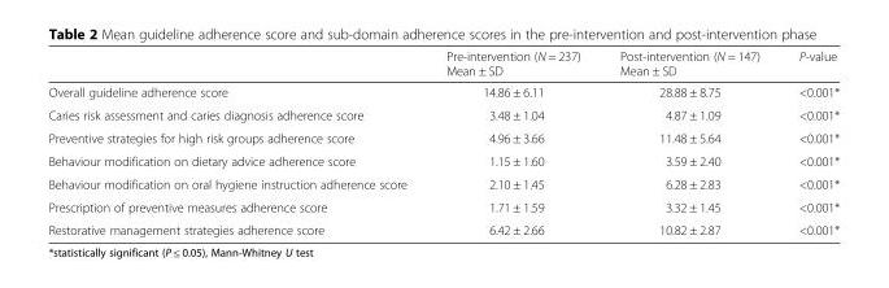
<table><thead><tr><td></td><td>Pre-intervention (N = 237) Mean ± SD</td><td>Post-intervention (N = 147) Mean ± SD</td><td>P-value</td></tr></thead><tbody><tr><td>Overall guideline adherence score</td><td>14.86 ± 6.11</td><td>28.88 ± 8.75</td><td>&lt;0.001*</td></tr><tr><td>Caries risk assessment and caries diagnosis adherence score</td><td>3.48 ± 1.04</td><td>4.87 ± 1.09</td><td>&lt;0.001*</td></tr><tr><td>Preventive strategies for high risk groups adherence score</td><td>4.96 ± 3.66</td><td>11.48 ± 5.64</td><td>&lt;0.001*</td></tr><tr><td>Behaviour modification on dietary advice adherence score</td><td>1.15 ± 1.60</td><td>3.59 ± 2.40</td><td>&lt;0.001*</td></tr><tr><td>Behaviour modification on oral hygiene instruction adherence score</td><td>2.10 ± 1.45</td><td>6.28 ± 2.83</td><td>&lt;0.001*</td></tr><tr><td>Prescription of preventive measures adherence score</td><td>1.71 ± 1.59</td><td>3.32 ± 1.45</td><td>&lt;0.001*</td></tr><tr><td>Restorative management strategies adherence score</td><td>6.42 ± 2.66</td><td>10.82 ± 2.87</td><td>&lt;0.001*</td></tr></tbody></table>